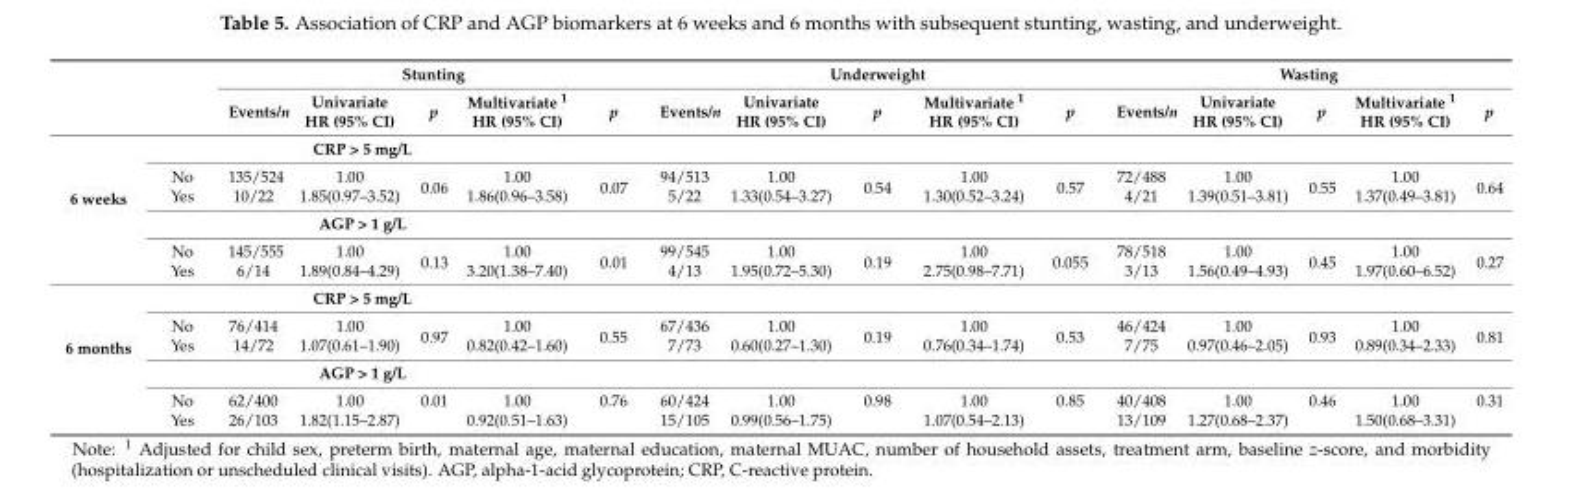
<table><thead><tr><td rowspan="2"></td><td rowspan="2"></td><td colspan="5">Stunting</td><td colspan="5">Underweight</td><td colspan="5">Wasting</td></tr><tr><td>Events/n</td><td>Univariate HR (95% CI)</td><td>p</td><td>Multivariate <sup>1</sup> HR (95% CI)</td><td>p</td><td>Events/n</td><td>Univariate HR (95% CI)</td><td>p</td><td>Multivariate <sup>1</sup> HR (95% CI)</td><td>p</td><td>Events/n</td><td>Univariate HR (95% CI)</td><td>p</td><td>Multivariate <sup>1</sup> HR (95% CI)</td><td>p</td></tr></thead><tbody><tr><td rowspan="6">6 weeks</td><td colspan="5">CRP &gt; 5 mg/L</td><td></td><td></td><td></td><td></td><td></td><td></td><td></td><td></td><td></td><td></td><td></td></tr><tr><td>No</td><td>135/524</td><td>1.00</td><td rowspan="2">0.06</td><td>1.00</td><td rowspan="2">0.07</td><td>94/513</td><td>1.00</td><td rowspan="2">0.54</td><td>1.00</td><td rowspan="2">0.57</td><td>72/488</td><td>1.00</td><td rowspan="2">0.55</td><td>1.00</td><td rowspan="2">0.64</td></tr><tr><td>Yes</td><td>10/22</td><td>1.85(0.97–3.52)</td><td>1.86(0.96–3.58)</td><td>5/22</td><td>1.33(0.54–3.27)</td><td>1.30(0.52–3.24)</td><td>4/21</td><td>1.39(0.51–3.81)</td><td>1.37(0.49–3.81)</td></tr><tr><td colspan="5">AGP &gt; 1 g/L</td><td></td><td></td><td></td><td></td><td></td><td></td><td></td><td></td><td></td><td></td><td></td></tr><tr><td>No</td><td>145/555</td><td>1.00</td><td rowspan="2">0.13</td><td>1.00</td><td rowspan="2">0.01</td><td>99/545</td><td>1.00</td><td rowspan="2">0.19</td><td>1.00</td><td rowspan="2">0.055</td><td>78/518</td><td>1.00</td><td rowspan="2">0.45</td><td>1.00</td><td rowspan="2">0.27</td></tr><tr><td>Yes</td><td>6/14</td><td>1.89(0.84–4.29)</td><td>3.20(1.38–7.40)</td><td>4/13</td><td>1.95(0.72–5.30)</td><td>2.75(0.98–7.71)</td><td>3/13</td><td>1.56(0.49–4.93)</td><td>1.97(0.60–6.52)</td></tr><tr><td rowspan="6">6 months</td><td colspan="5">CRP &gt; 5 mg/L</td><td></td><td></td><td></td><td></td><td></td><td></td><td></td><td></td><td></td><td></td><td></td></tr><tr><td>No</td><td>76/414</td><td>1.00</td><td rowspan="2">0.97</td><td>1.00</td><td rowspan="2">0.55</td><td>67/436</td><td>1.00</td><td rowspan="2">0.19</td><td>1.00</td><td rowspan="2">0.53</td><td>46/424</td><td>1.00</td><td rowspan="2">0.93</td><td>1.00</td><td rowspan="2">0.81</td></tr><tr><td>Yes</td><td>14/72</td><td>1.07(0.61–1.90)</td><td>0.82(0.42–1.60)</td><td>7/73</td><td>0.60(0.27–1.30)</td><td>0.76(0.34–1.74)</td><td>7/75</td><td>0.97(0.46–2.05)</td><td>0.89(0.34–2.33)</td></tr><tr><td colspan="5">AGP &gt; 1 g/L</td><td></td><td></td><td></td><td></td><td></td><td></td><td></td><td></td><td></td><td></td><td></td></tr><tr><td>No</td><td>62/400</td><td>1.00</td><td>0.01</td><td>1.00</td><td>0.76</td><td>60/424</td><td>1.00</td><td>0.98</td><td>1.00</td><td>0.85</td><td>40/408</td><td>1.00</td><td>0.46</td><td>1.00</td><td>0.31</td></tr><tr><td>Yes</td><td>26/103</td><td>1.82(1.15–2.87)</td><td></td><td>0.92(0.51–1.63)</td><td></td><td>15/105</td><td>0.99(0.56–1.75)</td><td></td><td>1.07(0.54–2.13)</td><td></td><td>13/109</td><td>1.27(0.68–2.37)</td><td></td><td>1.50(0.68–3.31)</td><td></td></tr></tbody></table>